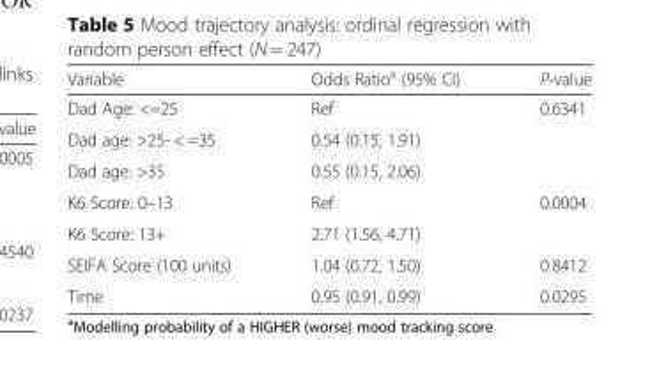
<table><thead><tr><td>Variable</td><td>Odds Ratio<sup>a</sup> (95% CI)</td><td>P-value</td></tr></thead><tbody><tr><td>Dad Age: &lt;=25</td><td>Ref</td><td rowspan="3">0.6341</td></tr><tr><td>Dad age: &gt;25- &lt; =35</td><td>0.54 (0.15, 1.91)</td></tr><tr><td>Dad age: &gt;35</td><td>0.55 (0.15, 2.06)</td></tr><tr><td>K6 Score: 0–13</td><td>Ref</td><td rowspan="2">0.0004</td></tr><tr><td>K6 Score: 13+</td><td>2.71 (1.56, 4.71)</td></tr><tr><td>SEIFA Score (100 units)</td><td>1.04 (0.72, 1.50)</td><td>0.8412</td></tr><tr><td>Time</td><td>0.95 (0.91, 0.99)</td><td>0.0295</td></tr></tbody></table>